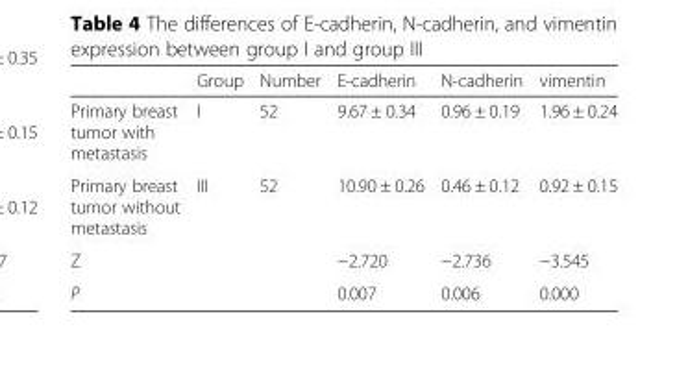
<table><thead><tr><td></td><td>Group</td><td>Number</td><td>E-cadherin</td><td>N-cadherin</td><td>vimentin</td></tr></thead><tbody><tr><td>Primary breast tumor with metastasis</td><td>I</td><td>52</td><td>9.67 ± 0.34</td><td>0.96 ± 0.19</td><td>1.96 ± 0.24</td></tr><tr><td>Primary breast tumor without metastasis</td><td>III</td><td>52</td><td>10.90 ± 0.26</td><td>0.46 ± 0.12</td><td>0.92 ± 0.15</td></tr><tr><td>Z</td><td></td><td></td><td>−2.720</td><td>−2.736</td><td>−3.545</td></tr><tr><td>P</td><td></td><td></td><td>0.007</td><td>0.006</td><td>0.000</td></tr></tbody></table>